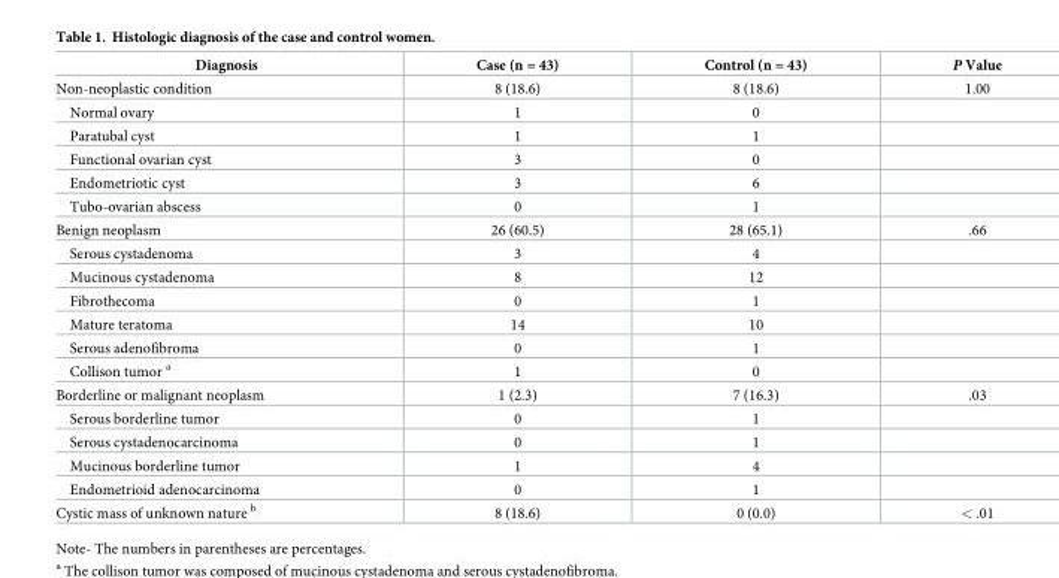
<table><thead><tr><td>Diagnosis</td><td>Case (n = 43)</td><td>Control (n = 43)</td><td>P Value</td></tr></thead><tbody><tr><td>Non-neoplastic condition</td><td>8 (18.6)</td><td>8 (18.6)</td><td>1.00</td></tr><tr><td>Normal ovary</td><td>1</td><td>0</td><td></td></tr><tr><td>Paratubal cyst</td><td>1</td><td>1</td><td></td></tr><tr><td>Functional ovarian cyst</td><td>3</td><td>0</td><td></td></tr><tr><td>Endometriotic cyst</td><td>3</td><td>6</td><td></td></tr><tr><td>Tubo-ovarian abscess</td><td>0</td><td>1</td><td></td></tr><tr><td>Benign neoplasm</td><td>26 (60.5)</td><td>28 (65.1)</td><td>.66</td></tr><tr><td>Serous cystadenoma</td><td>3</td><td>4</td><td></td></tr><tr><td>Mucinous cystadenoma</td><td>8</td><td>12</td><td></td></tr><tr><td>Fibrothecoma</td><td>0</td><td>1</td><td></td></tr><tr><td>Mature teratoma</td><td>14</td><td>10</td><td></td></tr><tr><td>Serous adenofibroma</td><td>0</td><td>1</td><td></td></tr><tr><td>Collison tumor <sup>a</sup></td><td>1</td><td>0</td><td></td></tr><tr><td>Borderline or malignant neoplasm</td><td>1 (2.3)</td><td>7 (16.3)</td><td>.03</td></tr><tr><td>Serous borderline tumor</td><td>0</td><td>1</td><td></td></tr><tr><td>Serous cystadenocarcinoma</td><td>0</td><td>1</td><td></td></tr><tr><td>Mucinous borderline tumor</td><td>1</td><td>4</td><td></td></tr><tr><td>Endometrioid adenocarcinoma</td><td>0</td><td>1</td><td></td></tr><tr><td>Cystic mass of unknown nature <sup>b</sup></td><td>8 (18.6)</td><td>0 (0.0)</td><td>&lt; .01</td></tr></tbody></table>